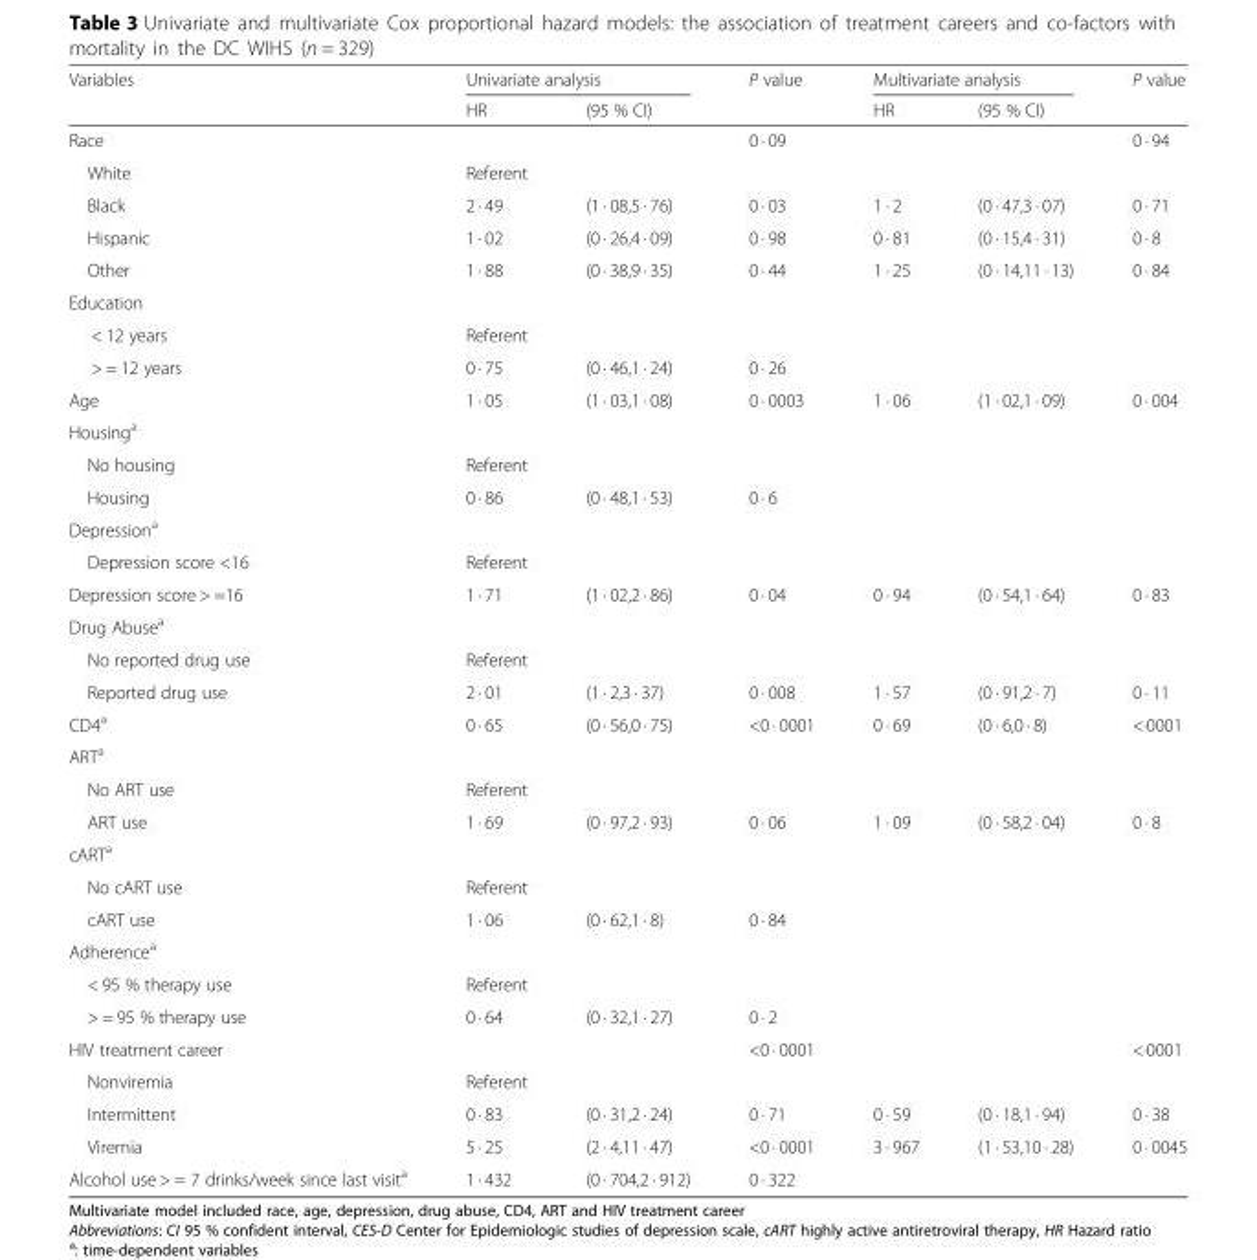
<table><thead><tr><td rowspan="2">Variables</td><td colspan="2">Univariate analysis</td><td rowspan="2">P value</td><td colspan="2">Multivariate analysis</td><td rowspan="2">P value</td></tr><tr><td>HR</td><td>(95 % CI)</td><td>HR</td><td>(95 % CI)</td></tr></thead><tbody><tr><td>Race</td><td></td><td></td><td>0 · 09</td><td></td><td></td><td>0 · 94</td></tr><tr><td>White</td><td>Referent</td><td></td><td></td><td></td><td></td><td></td></tr><tr><td>Black</td><td>2 · 49</td><td>(1 · 08,5 · 76)</td><td>0 · 03</td><td>1 · 2</td><td>(0 · 47,3 · 07)</td><td>0 · 71</td></tr><tr><td>Hispanic</td><td>1 · 02</td><td>(0 · 26,4 · 09)</td><td>0 · 98</td><td>0 · 81</td><td>(0 · 15,4 · 31)</td><td>0 · 8</td></tr><tr><td>Other</td><td>1 · 88</td><td>(0 · 38,9 · 35)</td><td>0 · 44</td><td>1 · 25</td><td>(0 · 14,11 · 13)</td><td>0 · 84</td></tr><tr><td colspan="7">Education</td></tr><tr><td>&lt; 12 years</td><td colspan="2">Referent</td><td></td><td></td><td></td><td></td></tr><tr><td>&gt; = 12 years</td><td>0 · 75</td><td>(0 · 46,1 · 24)</td><td>0 · 26</td><td></td><td></td><td></td></tr><tr><td>Age</td><td>1 · 05</td><td>(1 · 03,1 · 08)</td><td>0 · 0003</td><td>1 · 06</td><td>(1 · 02,1 · 09)</td><td>0 · 004</td></tr><tr><td colspan="7">Housing<sup>a</sup></td></tr><tr><td>No housing</td><td colspan="2">Referent</td><td></td><td></td><td></td><td></td></tr><tr><td>Housing</td><td>0 · 86</td><td>(0 · 48,1 · 53)</td><td>0 · 6</td><td></td><td></td><td></td></tr><tr><td colspan="7">Depression<sup>a</sup></td></tr><tr><td>Depression score &lt;16</td><td colspan="2">Referent</td><td></td><td></td><td></td><td></td></tr><tr><td>Depression score &gt; =16</td><td>1 · 71</td><td>(1 · 02,2 · 86)</td><td>0 · 04</td><td>0 · 94</td><td>(0 · 54,1 · 64)</td><td>0 · 83</td></tr><tr><td colspan="7">Drug Abuse<sup>a</sup></td></tr><tr><td>No reported drug use</td><td colspan="2">Referent</td><td></td><td></td><td></td><td></td></tr><tr><td>Reported drug use</td><td>2 · 01</td><td>(1 · 2,3 · 37)</td><td>0 · 008</td><td>1 · 57</td><td>(0 · 91,2 · 7)</td><td>0 · 11</td></tr><tr><td>CD4<sup>a</sup></td><td>0 · 65</td><td>(0 · 56,0 · 75)</td><td>&lt;0 · 0001</td><td>0 · 69</td><td>(0 · 6,0 · 8)</td><td>&lt;·0001</td></tr><tr><td colspan="7">ART<sup>a</sup></td></tr><tr><td>No ART use</td><td>Referent</td><td></td><td></td><td></td><td></td><td></td></tr><tr><td>ART use</td><td>1 · 69</td><td>(0 · 97,2 · 93)</td><td>0 · 06</td><td>1 · 09</td><td>(0 · 58,2 · 04)</td><td>0 · 8</td></tr><tr><td colspan="7">cART<sup>a</sup></td></tr><tr><td>No cART use</td><td>Referent</td><td></td><td></td><td></td><td></td><td></td></tr><tr><td>cART use</td><td>1 · 06</td><td>(0 · 62,1 · 8)</td><td>0 · 84</td><td></td><td></td><td></td></tr><tr><td colspan="7">Adherence<sup>a</sup></td></tr><tr><td>&lt; 95 % therapy use</td><td>Referent</td><td></td><td></td><td></td><td></td><td></td></tr><tr><td>&gt; = 95 % therapy use</td><td>0 · 64</td><td>(0 · 32,1 · 27)</td><td>0 · 2</td><td></td><td></td><td></td></tr><tr><td>HIV treatment career</td><td></td><td></td><td>&lt;0 · 0001</td><td></td><td></td><td>&lt;·0001</td></tr><tr><td>Nonviremia</td><td>Referent</td><td></td><td></td><td></td><td></td><td></td></tr><tr><td>Intermittent</td><td>0 · 83</td><td>(0 · 31,2 · 24)</td><td>0 · 71</td><td>0 · 59</td><td>(0 · 18,1 · 94)</td><td>0 · 38</td></tr><tr><td>Viremia</td><td>5 · 25</td><td>(2 · 4,11 · 47)</td><td>&lt;0 · 0001</td><td>3 · 967</td><td>(1 · 53,10 · 28)</td><td>0 · 0045</td></tr><tr><td>Alcohol use &gt; = 7 drinks/week since last visit<sup>a</sup></td><td>1 · 432</td><td>(0 · 704,2 · 912)</td><td>0 · 322</td><td></td><td></td><td></td></tr></tbody></table>